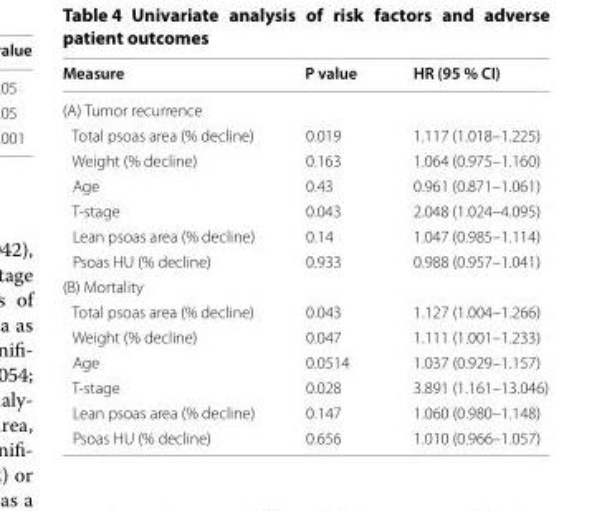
<table><thead><tr><td>Measure</td><td>P value</td><td>HR (95 % CI)</td></tr></thead><tbody><tr><td colspan="3">(A) Tumor recurrence</td></tr><tr><td>Total psoas area (% decline)</td><td>0.019</td><td>1.117 (1.018–1.225)</td></tr><tr><td>Weight (% decline)</td><td>0.163</td><td>1.064 (0.975–1.160)</td></tr><tr><td>Age</td><td>0.43</td><td>0.961 (0.871–1.061)</td></tr><tr><td>T-stage</td><td>0.043</td><td>2.048 (1.024–4.095)</td></tr><tr><td>Lean psoas area (% decline)</td><td>0.14</td><td>1.047 (0.985–1.114)</td></tr><tr><td>Psoas HU (% decline)</td><td>0.933</td><td>0.988 (0.957–1.041)</td></tr><tr><td colspan="3">(B) Mortality</td></tr><tr><td>Total psoas area (% decline)</td><td>0.043</td><td>1.127 (1.004–1.266)</td></tr><tr><td>Weight (% decline)</td><td>0.047</td><td>1.111 (1.001–1.233)</td></tr><tr><td>Age</td><td>0.0514</td><td>1.037 (0.929–1.157)</td></tr><tr><td>T-stage</td><td>0.028</td><td>3.891 (1.161–13.046)</td></tr><tr><td>Lean psoas area (% decline)</td><td>0.147</td><td>1.060 (0.980–1.148)</td></tr><tr><td>Psoas HU (% decline)</td><td>0.656</td><td>1.010 (0.966–1.057)</td></tr></tbody></table>